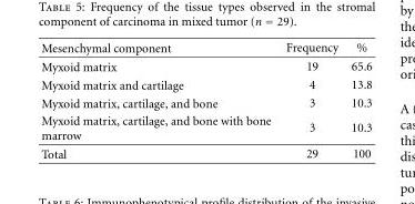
<table><thead><tr><td>Mesenchymal component</td><td>Frequency</td><td>%</td></tr></thead><tbody><tr><td>Myxoid matrix</td><td>19</td><td>65.6</td></tr><tr><td>Myxoid matrix and cartilage</td><td>4</td><td>13.8</td></tr><tr><td>Myxoid matrix, cartilage, and bone</td><td>3</td><td>10.3</td></tr><tr><td>Myxoid matrix, cartilage, and bone with bone marrow</td><td>3</td><td>10.3</td></tr><tr><td>Total</td><td>29</td><td>100</td></tr></tbody></table>